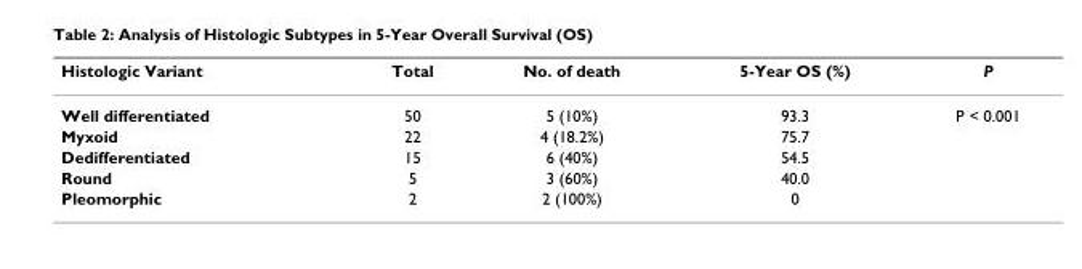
<table><thead><tr><td>Histologic Variant</td><td>Total</td><td>No. of death</td><td>5-Year OS (%)</td><td>P</td></tr></thead><tbody><tr><td>Well differentiated</td><td>50</td><td>5 (10%)</td><td>93.3</td><td>P &lt; 0.001</td></tr><tr><td>Myxoid</td><td>22</td><td>4 (18.2%)</td><td>75.7</td><td></td></tr><tr><td>Dedifferentiated</td><td>15</td><td>6 (40%)</td><td>54.5</td><td></td></tr><tr><td>Round</td><td>5</td><td>3 (60%)</td><td>40.0</td><td></td></tr><tr><td>Pleomorphic</td><td>2</td><td>2 (100%)</td><td>0</td><td></td></tr></tbody></table>